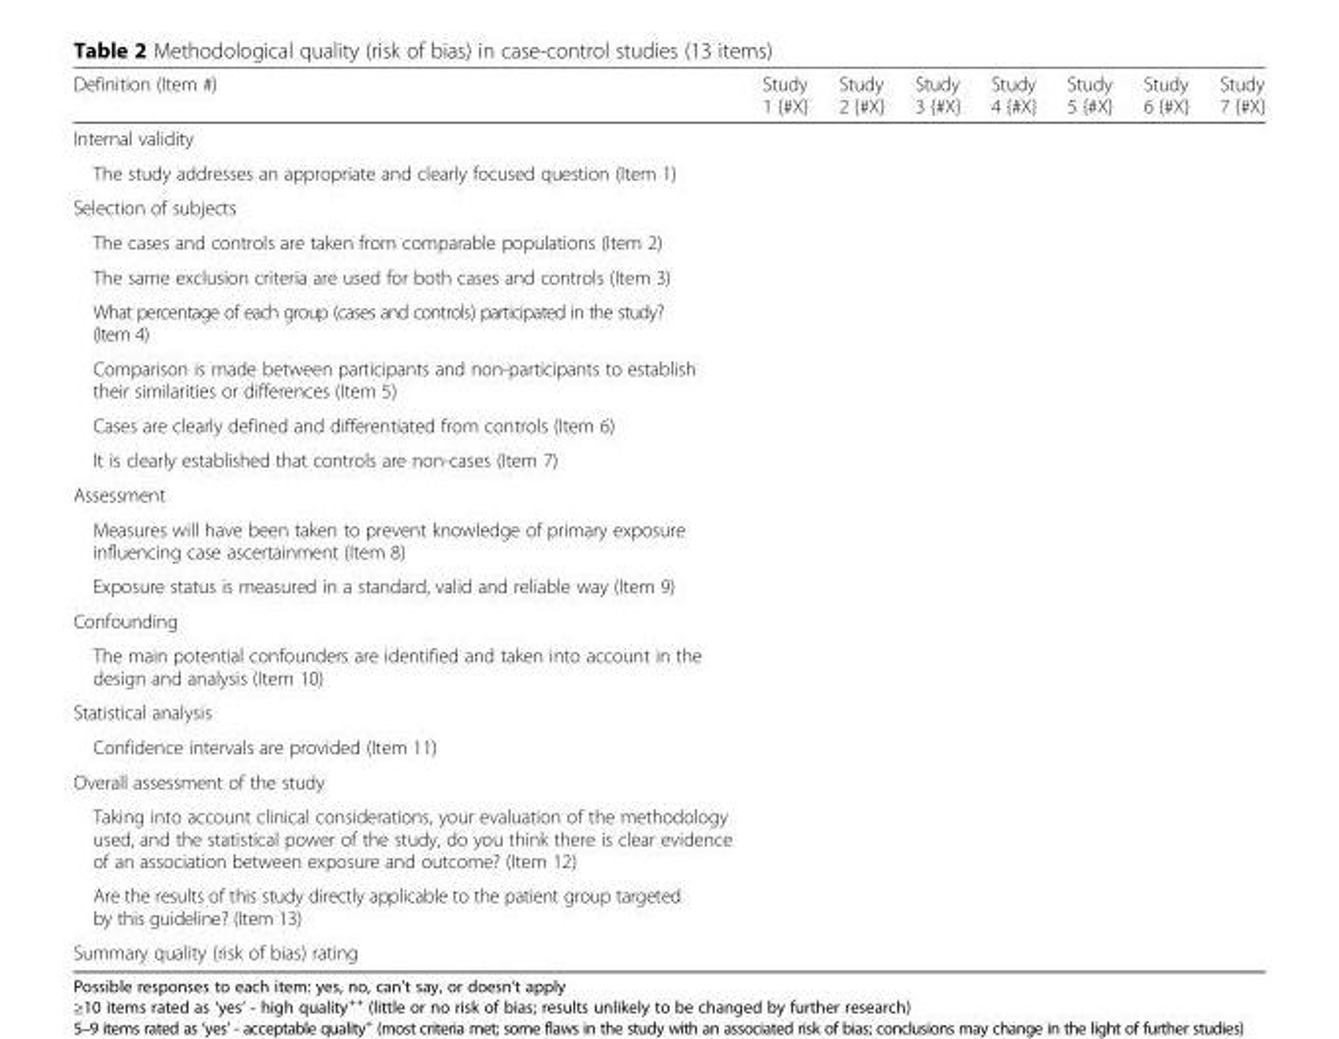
<table><thead><tr><td>Definition (Item #)</td><td>Study 1 {#X}</td><td>Study 2 {#X}</td><td>Study 3 {#X}</td><td>Study 4 {#X}</td><td>Study 5 {#X}</td><td>Study 6 {#X}</td><td>Study 7 {#X}</td></tr></thead><tbody><tr><td colspan="8">Internal validity</td></tr><tr><td colspan="8">The study addresses an appropriate and clearly focused question (Item 1)</td></tr><tr><td colspan="8">Selection of subjects</td></tr><tr><td colspan="8">The cases and controls are taken from comparable populations (Item 2)</td></tr><tr><td colspan="8">The same exclusion criteria are used for both cases and controls (Item 3)</td></tr><tr><td colspan="8">What percentage of each group (cases and controls) participated in the study? (Item 4)</td></tr><tr><td colspan="8">Comparison is made between participants and non-participants to establish their similarities or differences (Item 5)</td></tr><tr><td colspan="8">Cases are clearly defined and differentiated from controls (Item 6)</td></tr><tr><td colspan="8">It is clearly established that controls are non-cases (Item 7)</td></tr><tr><td colspan="8">Assessment</td></tr><tr><td colspan="8">Measures will have been taken to prevent knowledge of primary exposure influencing case ascertainment (Item 8)</td></tr><tr><td colspan="8">Exposure status is measured in a standard, valid and reliable way (Item 9)</td></tr><tr><td colspan="8">Confounding</td></tr><tr><td colspan="8">The main potential confounders are identified and taken into account in the design and analysis (Item 10)</td></tr><tr><td colspan="8">Statistical analysis</td></tr><tr><td colspan="8">Confidence intervals are provided (Item 11)</td></tr><tr><td colspan="8">Overall assessment of the study</td></tr><tr><td colspan="8">Taking into account clinical considerations, your evaluation of the methodology used, and the statistical power of the study, do you think there is clear evidence of an association between exposure and outcome? (Item 12)</td></tr><tr><td colspan="8">Are the results of this study directly applicable to the patient group targeted by this guideline? (Item 13)</td></tr><tr><td>Summary quality (risk of bias) rating</td><td></td><td></td><td></td><td></td><td></td><td></td><td></td></tr></tbody></table>